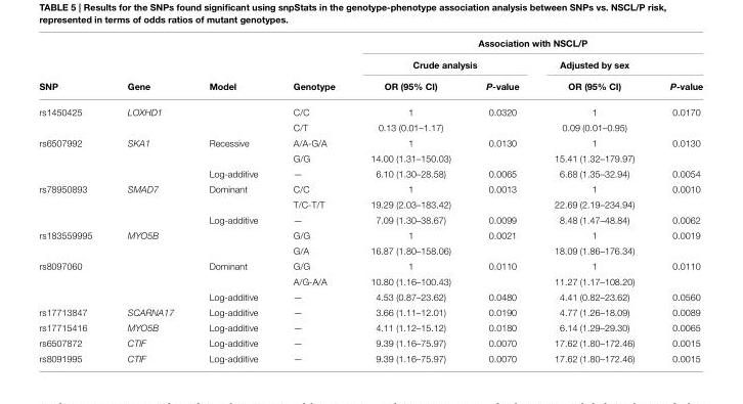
<table><thead><tr><td rowspan="3">SNP</td><td rowspan="3">Gene</td><td rowspan="3">Model</td><td rowspan="3">Genotype</td><td colspan="4">Association with NSCL/P</td></tr><tr><td colspan="2">Crude analysis</td><td colspan="2">Adjusted by sex</td></tr><tr><td>OR (95% CI)</td><td>P-value</td><td>OR (95% CI)</td><td>P-value</td></tr></thead><tbody><tr><td rowspan="2">rs1450425</td><td>LOXHD1</td><td></td><td>C/C</td><td>1</td><td>0.0320</td><td>1</td><td>0.0170</td></tr><tr><td></td><td></td><td>C/T</td><td>0.13 (0.01–1.17)</td><td></td><td>0.09 (0.01–0.95)</td><td></td></tr><tr><td rowspan="3">rs6507992</td><td>SKA1</td><td>Recessive</td><td>A/A-G/A</td><td>1</td><td>0.0130</td><td>1</td><td>0.0130</td></tr><tr><td></td><td></td><td>G/G</td><td>14.00 (1.31–150.03)</td><td></td><td>15.41 (1.32–179.97)</td><td></td></tr><tr><td></td><td>Log-additive</td><td>—</td><td>6.10 (1.30–28.58)</td><td>0.0065</td><td>6.68 (1.35–32.94)</td><td>0.0054</td></tr><tr><td rowspan="3">rs78950893</td><td>SMAD7</td><td>Dominant</td><td>C/C</td><td>1</td><td>0.0013</td><td>1</td><td>0.0010</td></tr><tr><td></td><td></td><td>T/C-T/T</td><td>19.29 (2.03–183.42)</td><td></td><td>22.69 (2.19–234.94)</td><td></td></tr><tr><td></td><td>Log-additive</td><td>—</td><td>7.09 (1.30–38.67)</td><td>0.0099</td><td>8.48 (1.47–48.84)</td><td>0.0062</td></tr><tr><td rowspan="2">rs183559995</td><td>MYO5B</td><td></td><td>G/G</td><td>1</td><td>0.0021</td><td>1</td><td>0.0019</td></tr><tr><td></td><td></td><td>G/A</td><td>16.87 (1.80–158.06)</td><td></td><td>18.09 (1.86–176.34)</td><td></td></tr><tr><td rowspan="3">rs8097060</td><td></td><td>Dominant</td><td>G/G</td><td>1</td><td>0.0110</td><td>1</td><td>0.0110</td></tr><tr><td></td><td></td><td>A/G-A/A</td><td>10.80 (1.16–100.43)</td><td></td><td>11.27 (1.17–108.20)</td><td></td></tr><tr><td></td><td>Log-additive</td><td>—</td><td>4.53 (0.87–23.62)</td><td>0.0480</td><td>4.41 (0.82–23.62)</td><td>0.0560</td></tr><tr><td>rs17713847</td><td>SCARNA17</td><td>Log-additive</td><td>—</td><td>3.66 (1.11–12.01)</td><td>0.0190</td><td>4.77 (1.26–18.09)</td><td>0.0089</td></tr><tr><td>rs17715416</td><td>MYO5B</td><td>Log-additive</td><td>—</td><td>4.11 (1.12–15.12)</td><td>0.0180</td><td>6.14 (1.29–29.30)</td><td>0.0065</td></tr><tr><td>rs6507872</td><td>CTIF</td><td>Log-additive</td><td>—</td><td>9.39 (1.16–75.97)</td><td>0.0070</td><td>17.62 (1.80–172.46)</td><td>0.0015</td></tr><tr><td>rs8091995</td><td>CTIF</td><td>Log-additive</td><td>—</td><td>9.39 (1.16–75.97)</td><td>0.0070</td><td>17.62 (1.80–172.46)</td><td>0.0015</td></tr></tbody></table>